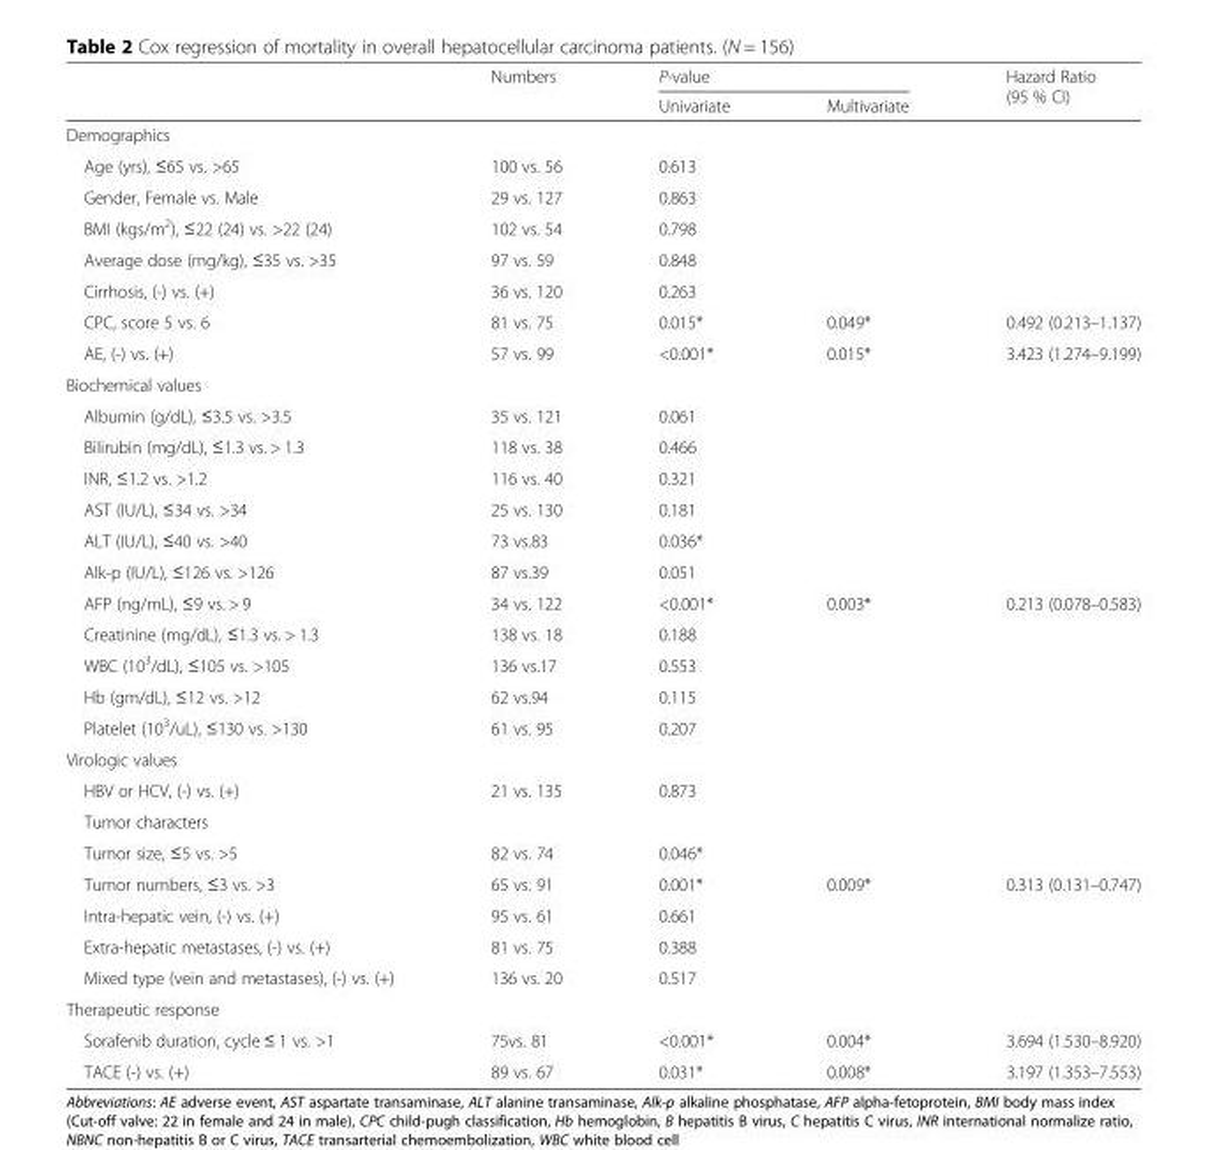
<table><thead><tr><td rowspan="2"></td><td rowspan="2">Numbers</td><td colspan="2">P-value</td><td rowspan="2">Hazard Ratio (95 % CI)</td></tr><tr><td>Univariate</td><td>Multivariate</td></tr></thead><tbody><tr><td colspan="5">Demographics</td></tr><tr><td>Age (yrs), ≤65 vs. &gt;65</td><td>100 vs. 56</td><td>0.613</td><td></td><td></td></tr><tr><td>Gender, Female vs. Male</td><td>29 vs. 127</td><td>0.863</td><td></td><td></td></tr><tr><td>BMI (kgs/m<sup>2</sup>), ≤22 (24) vs. &gt;22 (24)</td><td>102 vs. 54</td><td>0.798</td><td></td><td></td></tr><tr><td>Average dose (mg/kg), ≤35 vs. &gt;35</td><td>97 vs. 59</td><td>0.848</td><td></td><td></td></tr><tr><td>Cirrhosis, (-) vs. (+)</td><td>36 vs. 120</td><td>0.263</td><td></td><td></td></tr><tr><td>CPC, score 5 vs. 6</td><td>81 vs. 75</td><td>0.015*</td><td>0.049*</td><td>0.492 (0.213–1.137)</td></tr><tr><td>AE, (-) vs. (+)</td><td>57 vs. 99</td><td>&lt;0.001*</td><td>0.015*</td><td>3.423 (1.274–9.199)</td></tr><tr><td colspan="5">Biochemical values</td></tr><tr><td>Albumin (g/dL), ≤3.5 vs. &gt;3.5</td><td>35 vs. 121</td><td>0.061</td><td></td><td></td></tr><tr><td>Bilirubin (mg/dL), ≤1.3 vs. &gt; 1.3</td><td>118 vs. 38</td><td>0.466</td><td></td><td></td></tr><tr><td>INR, ≤1.2 vs. &gt;1.2</td><td>116 vs. 40</td><td>0.321</td><td></td><td></td></tr><tr><td>AST (IU/L), ≤34 vs. &gt;34</td><td>25 vs. 130</td><td>0.181</td><td></td><td></td></tr><tr><td>ALT (IU/L), ≤40 vs. &gt;40</td><td>73 vs.83</td><td>0.036*</td><td></td><td></td></tr><tr><td>Alk-p (IU/L), ≤126 vs. &gt;126</td><td>87 vs.39</td><td>0.051</td><td></td><td></td></tr><tr><td>AFP (ng/mL), ≤9 vs. &gt; 9</td><td>34 vs. 122</td><td>&lt;0.001*</td><td>0.003*</td><td>0.213 (0.078–0.583)</td></tr><tr><td>Creatinine (mg/dL), ≤1.3 vs. &gt; 1.3</td><td>138 vs. 18</td><td>0.188</td><td></td><td></td></tr><tr><td>WBC (10<sup>3</sup>/dL), ≤105 vs. &gt;105</td><td>136 vs.17</td><td>0.553</td><td></td><td></td></tr><tr><td>Hb (gm/dL), ≤12 vs. &gt;12</td><td>62 vs.94</td><td>0.115</td><td></td><td></td></tr><tr><td>Platelet (10<sup>3</sup>/uL), ≤130 vs. &gt;130</td><td>61 vs. 95</td><td>0.207</td><td></td><td></td></tr><tr><td colspan="5">Virologic values</td></tr><tr><td>HBV or HCV, (-) vs. (+)</td><td>21 vs. 135</td><td>0.873</td><td></td><td></td></tr><tr><td colspan="5">Tumor characters</td></tr><tr><td>Tumor size, ≤5 vs. &gt;5</td><td>82 vs. 74</td><td>0.046*</td><td></td><td></td></tr><tr><td>Tumor numbers, ≤3 vs. &gt;3</td><td>65 vs. 91</td><td>0.001*</td><td>0.009*</td><td>0.313 (0.131–0.747)</td></tr><tr><td>Intra-hepatic vein, (-) vs. (+)</td><td>95 vs. 61</td><td>0.661</td><td></td><td></td></tr><tr><td>Extra-hepatic metastases, (-) vs. (+)</td><td>81 vs. 75</td><td>0.388</td><td></td><td></td></tr><tr><td>Mixed type (vein and metastases), (-) vs. (+)</td><td>136 vs. 20</td><td>0.517</td><td></td><td></td></tr><tr><td colspan="5">Therapeutic response</td></tr><tr><td>Sorafenib duration, cycle ≤ 1 vs. &gt;1</td><td>75vs. 81</td><td>&lt;0.001*</td><td>0.004*</td><td>3.694 (1.530–8.920)</td></tr><tr><td>TACE (-) vs. (+)</td><td>89 vs. 67</td><td>0.031*</td><td>0.008*</td><td>3.197 (1.353–7.553)</td></tr></tbody></table>